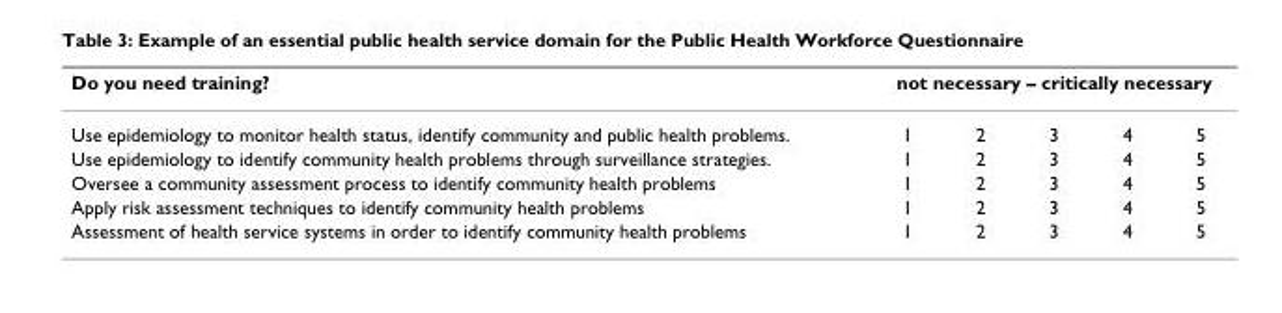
<table><thead><tr><td rowspan="2">Do you need training? Use epidemiology to monitor health status, identify community and public health problems.</td><td colspan="5">not necessary – critically necessary</td></tr><tr><td>1</td><td>2</td><td>3</td><td>4</td><td>5</td></tr></thead><tbody><tr><td>Use epidemiology to identify community health problems through surveillance strategies.</td><td>1</td><td>2</td><td>3</td><td>4</td><td>5</td></tr><tr><td>Oversee a community assessment process to identify community health problems</td><td>1</td><td>2</td><td>3</td><td>4</td><td>5</td></tr><tr><td>Apply risk assessment techniques to identify community health problems</td><td>1</td><td>2</td><td>3</td><td>4</td><td>5</td></tr><tr><td>Assessment of health service systems in order to identify community health problems</td><td>1</td><td>2</td><td>3</td><td>4</td><td>5</td></tr></tbody></table>